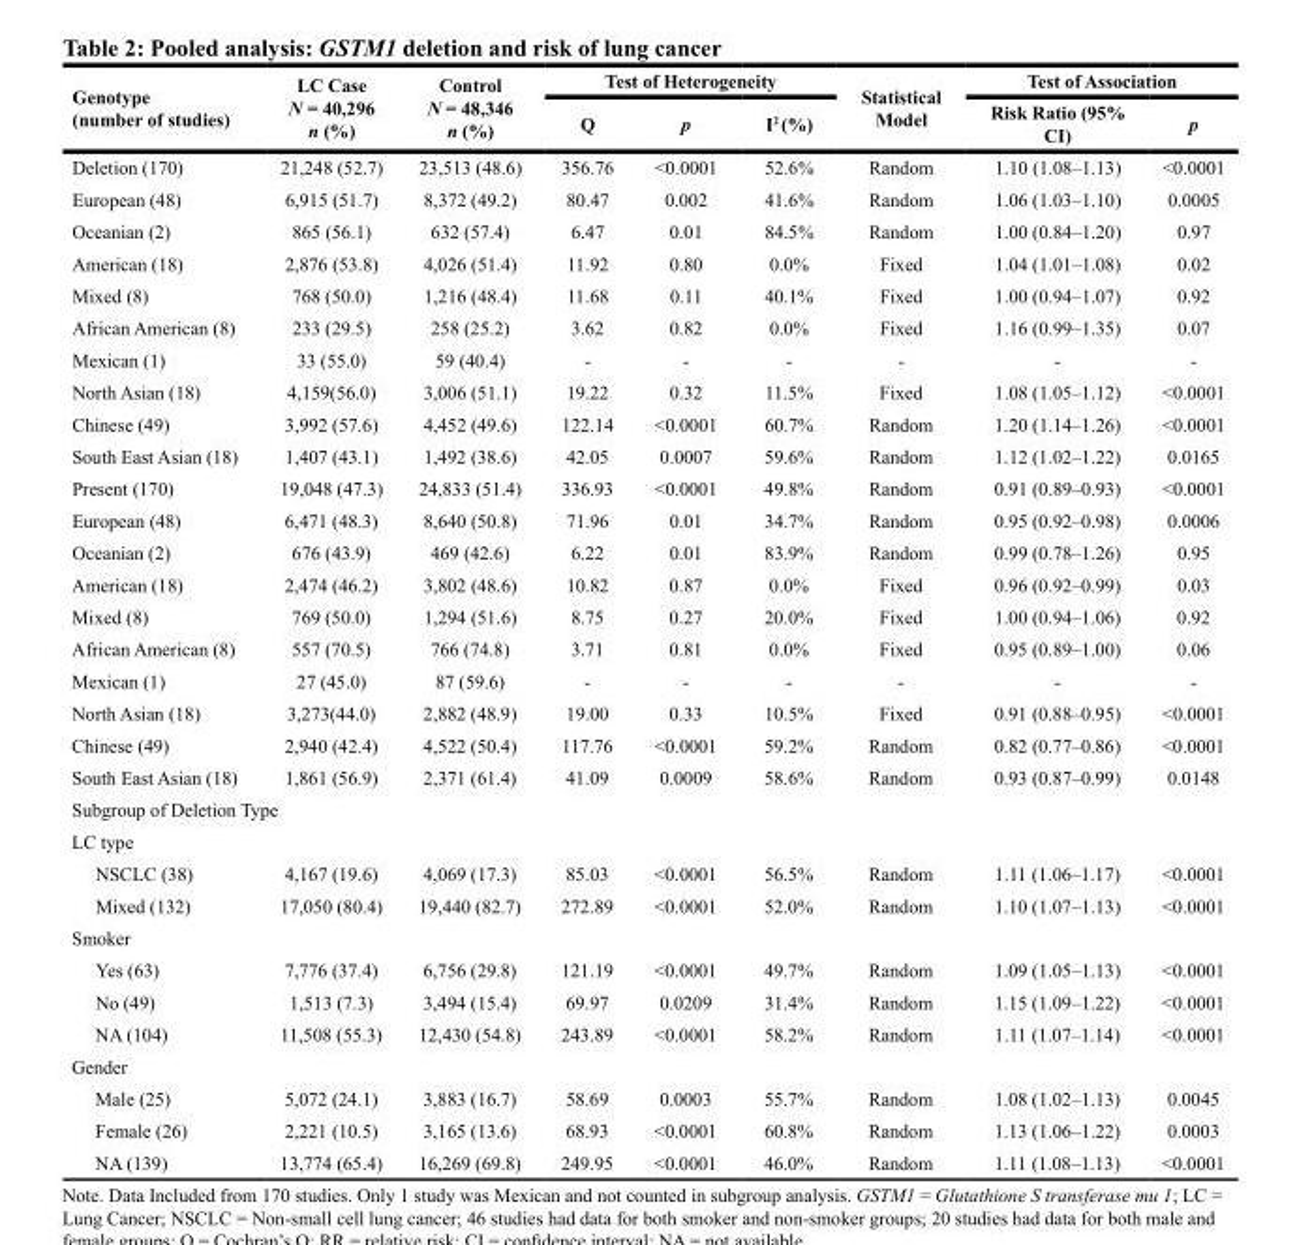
<table><thead><tr><td rowspan="2">Genotype (number of studies)</td><td rowspan="2">Lc case N = 40,296 n (%)</td><td rowspan="2">control N = 48,346 n (%)</td><td colspan="3">test of Heterogeneity</td><td rowspan="2">statistical Model</td><td colspan="2">test of Association</td></tr><tr><td>Q</td><td>p</td><td>I<sup>2</sup> (%)</td><td>risk ratio (95% cI)</td><td>p</td></tr></thead><tbody><tr><td>Deletion (170)</td><td>21,248 (52.7)</td><td>23,513 (48.6)</td><td>356.76</td><td>&lt;0.0001</td><td>52.6%</td><td>Random</td><td>1.10 (1.08–1.13)</td><td>&lt;0.0001</td></tr><tr><td>European (48)</td><td>6,915 (51.7)</td><td>8,372 (49.2)</td><td>80.47</td><td>0.002</td><td>41.6%</td><td>Random</td><td>1.06 (1.03–1.10)</td><td>0.0005</td></tr><tr><td>Oceanian (2)</td><td>865 (56.1)</td><td>632 (57.4)</td><td>6.47</td><td>0.01</td><td>84.5%</td><td>Random</td><td>1.00 (0.84–1.20)</td><td>0.97</td></tr><tr><td>American (18)</td><td>2,876 (53.8)</td><td>4,026 (51.4)</td><td>11.92</td><td>0.80</td><td>0.0%</td><td>Fixed</td><td>1.04 (1.01–1.08)</td><td>0.02</td></tr><tr><td>Mixed (8)</td><td>768 (50.0)</td><td>1,216 (48.4)</td><td>11.68</td><td>0.11</td><td>40.1%</td><td>Fixed</td><td>1.00 (0.94–1.07)</td><td>0.92</td></tr><tr><td>African American (8)</td><td>233 (29.5)</td><td>258 (25.2)</td><td>3.62</td><td>0.82</td><td>0.0%</td><td>Fixed</td><td>1.16 (0.99–1.35)</td><td>0.07</td></tr><tr><td>Mexican (1)</td><td>33 (55.0)</td><td>59 (40.4)</td><td>-</td><td>-</td><td>-</td><td>-</td><td>-</td><td>-</td></tr><tr><td>North Asian (18)</td><td>4,159(56.0)</td><td>3,006 (51.1)</td><td>19.22</td><td>0.32</td><td>11.5%</td><td>Fixed</td><td>1.08 (1.05–1.12)</td><td>&lt;0.0001</td></tr><tr><td>Chinese (49)</td><td>3,992 (57.6)</td><td>4,452 (49.6)</td><td>122.14</td><td>&lt;0.0001</td><td>60.7%</td><td>Random</td><td>1.20 (1.14–1.26)</td><td>&lt;0.0001</td></tr><tr><td>South East Asian (18)</td><td>1,407 (43.1)</td><td>1,492 (38.6)</td><td>42.05</td><td>0.0007</td><td>59.6%</td><td>Random</td><td>1.12 (1.02–1.22)</td><td>0.0165</td></tr><tr><td>Present (170)</td><td>19,048 (47.3)</td><td>24,833 (51.4)</td><td>336.93</td><td>&lt;0.0001</td><td>49.8%</td><td>Random</td><td>0.91 (0.89–0.93)</td><td>&lt;0.0001</td></tr><tr><td>European (48)</td><td>6,471 (48.3)</td><td>8,640 (50.8)</td><td>71.96</td><td>0.01</td><td>34.7%</td><td>Random</td><td>0.95 (0.92–0.98)</td><td>0.0006</td></tr><tr><td>Oceanian (2)</td><td>676 (43.9)</td><td>469 (42.6)</td><td>6.22</td><td>0.01</td><td>83.9%</td><td>Random</td><td>0.99 (0.78–1.26)</td><td>0.95</td></tr><tr><td>American (18)</td><td>2,474 (46.2)</td><td>3,802 (48.6)</td><td>10.82</td><td>0.87</td><td>0.0%</td><td>Fixed</td><td>0.96 (0.92–0.99)</td><td>0.03</td></tr><tr><td>Mixed (8)</td><td>769 (50.0)</td><td>1,294 (51.6)</td><td>8.75</td><td>0.27</td><td>20.0%</td><td>Fixed</td><td>1.00 (0.94–1.06)</td><td>0.92</td></tr><tr><td>African American (8)</td><td>557 (70.5)</td><td>766 (74.8)</td><td>3.71</td><td>0.81</td><td>0.0%</td><td>Fixed</td><td>0.95 (0.89–1.00)</td><td>0.06</td></tr><tr><td>Mexican (1)</td><td>27 (45.0)</td><td>87 (59.6)</td><td>-</td><td>-</td><td>-</td><td>-</td><td>-</td><td>-</td></tr><tr><td>North Asian (18)</td><td>3,273(44.0)</td><td>2,882 (48.9)</td><td>19.00</td><td>0.33</td><td>10.5%</td><td>Fixed</td><td>0.91 (0.88–0.95)</td><td>&lt;0.0001</td></tr><tr><td>Chinese (49)</td><td>2,940 (42.4)</td><td>4,522 (50.4)</td><td>117.76</td><td>&lt;0.0001</td><td>59.2%</td><td>Random</td><td>0.82 (0.77–0.86)</td><td>&lt;0.0001</td></tr><tr><td>South East Asian (18)</td><td>1,861 (56.9)</td><td>2,371 (61.4)</td><td>41.09</td><td>0.0009</td><td>58.6%</td><td>Random</td><td>0.93 (0.87–0.99)</td><td>0.0148</td></tr><tr><td colspan="9">Subgroup of Deletion Type</td></tr><tr><td colspan="9">LC type</td></tr><tr><td>NSCLC (38)</td><td>4,167 (19.6)</td><td>4,069 (17.3)</td><td>85.03</td><td>&lt;0.0001</td><td>56.5%</td><td>Random</td><td>1.11 (1.06–1.17)</td><td>&lt;0.0001</td></tr><tr><td>Mixed (132)</td><td>17,050 (80.4)</td><td>19,440 (82.7)</td><td>272.89</td><td>&lt;0.0001</td><td>52.0%</td><td>Random</td><td>1.10 (1.07–1.13)</td><td>&lt;0.0001</td></tr><tr><td colspan="9">Smoker</td></tr><tr><td>Yes (63)</td><td>7,776 (37.4)</td><td>6,756 (29.8)</td><td>121.19</td><td>&lt;0.0001</td><td>49.7%</td><td>Random</td><td>1.09 (1.05–1.13)</td><td>&lt;0.0001</td></tr><tr><td>No (49)</td><td>1,513 (7.3)</td><td>3,494 (15.4)</td><td>69.97</td><td>0.0209</td><td>31.4%</td><td>Random</td><td>1.15 (1.09–1.22)</td><td>&lt;0.0001</td></tr><tr><td>NA (104)</td><td>11,508 (55.3)</td><td>12,430 (54.8)</td><td>243.89</td><td>&lt;0.0001</td><td>58.2%</td><td>Random</td><td>1.11 (1.07–1.14)</td><td>&lt;0.0001</td></tr><tr><td colspan="9">Gender</td></tr><tr><td>Male (25)</td><td>5,072 (24.1)</td><td>3,883 (16.7)</td><td>58.69</td><td>0.0003</td><td>55.7%</td><td>Random</td><td>1.08 (1.02–1.13)</td><td>0.0045</td></tr><tr><td>Female (26)</td><td>2,221 (10.5)</td><td>3,165 (13.6)</td><td>68.93</td><td>&lt;0.0001</td><td>60.8%</td><td>Random</td><td>1.13 (1.06–1.22)</td><td>0.0003</td></tr><tr><td>NA (139)</td><td>13,774 (65.4)</td><td>16,269 (69.8)</td><td>249.95</td><td>&lt;0.0001</td><td>46.0%</td><td>Random</td><td>1.11 (1.08–1.13)</td><td>&lt;0.0001</td></tr></tbody></table>